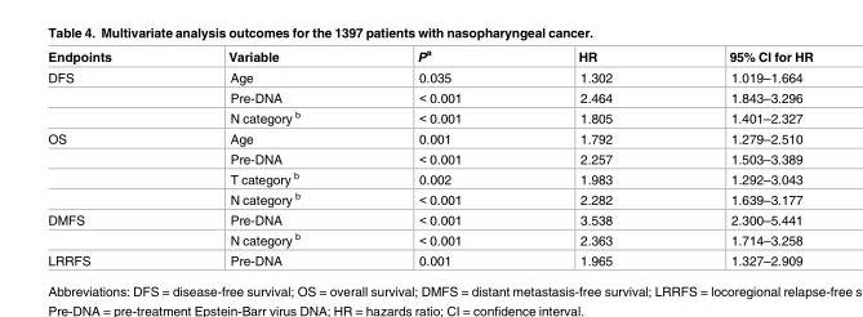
<table><thead><tr><td>Endpoints</td><td>Variable</td><td>P<sup>a</sup></td><td>HR</td><td>95% CI for HR</td></tr></thead><tbody><tr><td rowspan="3">DFS</td><td>Age</td><td>0.035</td><td>1.302</td><td>1.019–1.664</td></tr><tr><td>Pre-DNA</td><td>&lt; 0.001</td><td>2.464</td><td>1.843–3.296</td></tr><tr><td>N category <sup>b</sup></td><td>&lt; 0.001</td><td>1.805</td><td>1.401–2.327</td></tr><tr><td rowspan="4">OS</td><td>Age</td><td>0.001</td><td>1.792</td><td>1.279–2.510</td></tr><tr><td>Pre-DNA</td><td>&lt; 0.001</td><td>2.257</td><td>1.503–3.389</td></tr><tr><td>T category <sup>b</sup></td><td>0.002</td><td>1.983</td><td>1.292–3.043</td></tr><tr><td>N category <sup>b</sup></td><td>&lt; 0.001</td><td>2.282</td><td>1.639–3.177</td></tr><tr><td rowspan="2">DMFS</td><td>Pre-DNA</td><td>&lt; 0.001</td><td>3.538</td><td>2.300–5.441</td></tr><tr><td>N category <sup>b</sup></td><td>&lt; 0.001</td><td>2.363</td><td>1.714–3.258</td></tr><tr><td>LRRFS</td><td>Pre-DNA</td><td>0.001</td><td>1.965</td><td>1.327–2.909</td></tr></tbody></table>